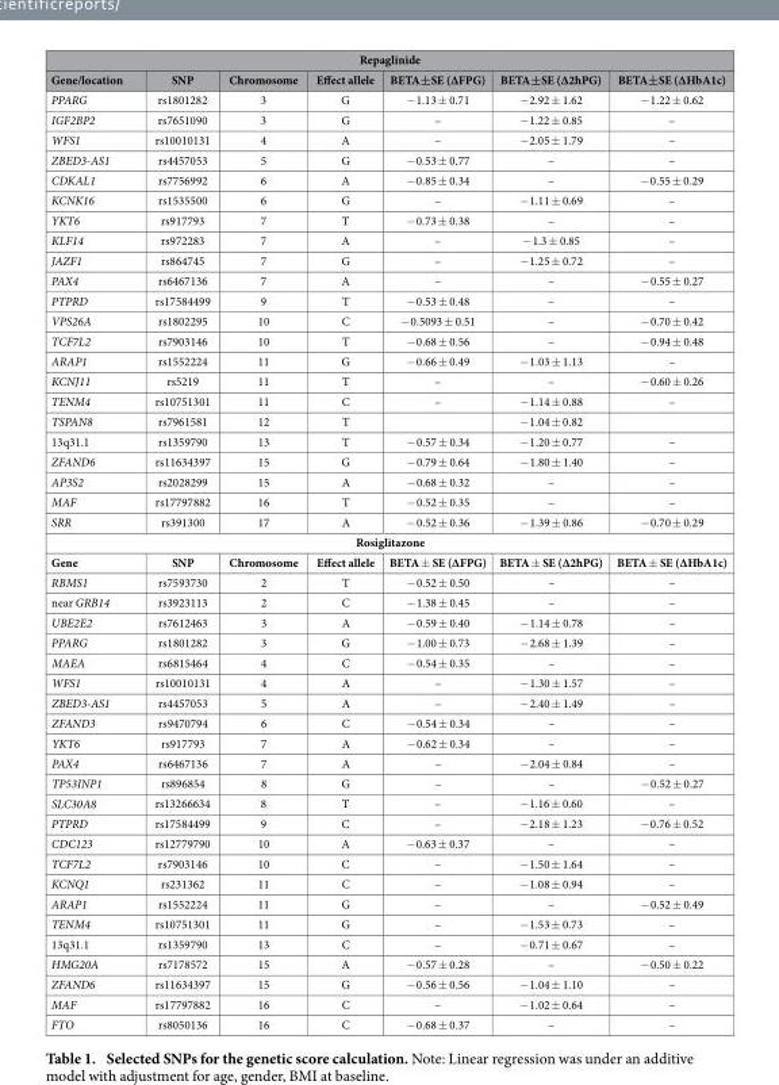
<table><thead><tr><td colspan="7">Repaglinide</td></tr><tr><td>Gene/location</td><td>SNP</td><td>Chromosome</td><td>Effect allele</td><td>BETA±SE (ΔFPG)</td><td>BETA±SE (Δ2hPG)</td><td>BETA±SE (ΔHbA1c)</td></tr></thead><tbody><tr><td>PPARG</td><td>rs1801282</td><td>3</td><td>G</td><td>− 1.13 ± 0.71</td><td>− 2.92 ± 1.62</td><td>− 1.22 ± 0.62</td></tr><tr><td>IGF2BP2</td><td>rs7651090</td><td>3</td><td>G</td><td>–</td><td>− 1.22 ± 0.85</td><td>–</td></tr><tr><td>WFS1</td><td>rs10010131</td><td>4</td><td>A</td><td>–</td><td>− 2.05 ± 1.79</td><td>–</td></tr><tr><td>ZBED3-AS1</td><td>rs4457053</td><td>5</td><td>G</td><td>− 0.53 ± 0.77</td><td>–</td><td>–</td></tr><tr><td>CDKAL1</td><td>rs7756992</td><td>6</td><td>A</td><td>− 0.85 ± 0.34</td><td>–</td><td>− 0.55 ± 0.29</td></tr><tr><td>KCNK16</td><td>rs1535500</td><td>6</td><td>G</td><td>–</td><td>− 1.11 ± 0.69</td><td>–</td></tr><tr><td>YKT6</td><td>rs917793</td><td>7</td><td>T</td><td>− 0.73 ± 0.38</td><td>–</td><td>–</td></tr><tr><td>KLF14</td><td>rs972283</td><td>7</td><td>A</td><td>–</td><td>− 1.3 ± 0.85</td><td>–</td></tr><tr><td>JAZF1</td><td>rs864745</td><td>7</td><td>G</td><td>–</td><td>− 1.25 ± 0.72</td><td>–</td></tr><tr><td>PAX4</td><td>rs6467136</td><td>7</td><td>A</td><td>–</td><td>–</td><td>− 0.55 ± 0.27</td></tr><tr><td>PTPRD</td><td>rs17584499</td><td>9</td><td>T</td><td>− 0.53 ± 0.48</td><td>–</td><td>–</td></tr><tr><td>VPS26A</td><td>rs1802295</td><td>10</td><td>C</td><td>− 0.5093 ± 0.51</td><td>–</td><td>− 0.70 ± 0.42</td></tr><tr><td>TCF7L2</td><td>rs7903146</td><td>10</td><td>T</td><td>− 0.68 ± 0.56</td><td>–</td><td>− 0.94 ± 0.48</td></tr><tr><td>ARAP1</td><td>rs1552224</td><td>11</td><td>G</td><td>− 0.66 ± 0.49</td><td>− 1.03 ± 1.13</td><td>–</td></tr><tr><td>KCNJ11</td><td>rs5219</td><td>11</td><td>T</td><td>–</td><td>–</td><td>− 0.60 ± 0.26</td></tr><tr><td>TENM4</td><td>rs10751301</td><td>11</td><td>C</td><td>–</td><td>− 1.14 ± 0.88</td><td>–</td></tr><tr><td>TSPAN8</td><td>rs7961581</td><td>12</td><td>T</td><td></td><td>− 1.04 ± 0.82</td><td></td></tr><tr><td>13q31.1</td><td>rs1359790</td><td>13</td><td>T</td><td>− 0.57 ± 0.34</td><td>− 1.20 ± 0.77</td><td>–</td></tr><tr><td>ZFAND6</td><td>rs11634397</td><td>15</td><td>G</td><td>− 0.79 ± 0.64</td><td>− 1.80 ± 1.40</td><td>–</td></tr><tr><td>AP3S2</td><td>rs2028299</td><td>15</td><td>A</td><td>− 0.68 ± 0.32</td><td>–</td><td>–</td></tr><tr><td>MAF</td><td>rs17797882</td><td>16</td><td>T</td><td>− 0.52 ± 0.35</td><td>–</td><td>–</td></tr><tr><td>SRR</td><td>rs391300</td><td>17</td><td>A</td><td>− 0.52 ± 0.36</td><td>− 1.39 ± 0.86</td><td>− 0.70 ± 0.29</td></tr><tr><td colspan="7">Rosiglitazone</td></tr><tr><td>Gene</td><td>SNP</td><td>Chromosome</td><td>Effect allele</td><td>BETA ± SE (ΔFPG)</td><td>BETA ± SE (Δ2hPG)</td><td>BETA ± SE (ΔHbA1c)</td></tr><tr><td>RBMS1</td><td>rs7593730</td><td>2</td><td>T</td><td>− 0.52 ± 0.50</td><td>–</td><td>–</td></tr><tr><td>near GRB14</td><td>rs3923113</td><td>2</td><td>C</td><td>− 1.38 ± 0.45</td><td>–</td><td>–</td></tr><tr><td>UBE2E2</td><td>rs7612463</td><td>3</td><td>A</td><td>− 0.59 ± 0.40</td><td>− 1.14 ± 0.78</td><td>–</td></tr><tr><td>PPARG</td><td>rs1801282</td><td>3</td><td>G</td><td>− 1.00 ± 0.73</td><td>− 2.68 ± 1.39</td><td>–</td></tr><tr><td>MAEA</td><td>rs6815464</td><td>4</td><td>C</td><td>− 0.54 ± 0.35</td><td>–</td><td>–</td></tr><tr><td>WFS1</td><td>rs10010131</td><td>4</td><td>A</td><td>–</td><td>− 1.30 ± 1.57</td><td>–</td></tr><tr><td>ZBED3-AS1</td><td>rs4457053</td><td>5</td><td>A</td><td>–</td><td>− 2.40 ± 1.49</td><td>–</td></tr><tr><td>ZFAND3</td><td>rs9470794</td><td>6</td><td>C</td><td>− 0.54 ± 0.34</td><td>–</td><td>–</td></tr><tr><td>YKT6</td><td>rs917793</td><td>7</td><td>A</td><td>− 0.62 ± 0.34</td><td>–</td><td>–</td></tr><tr><td>PAX4</td><td>rs6467136</td><td>7</td><td>A</td><td>–</td><td>− 2.04 ± 0.84</td><td>–</td></tr><tr><td>TP53INP1</td><td>rs896854</td><td>8</td><td>G</td><td>–</td><td>–</td><td>− 0.52 ± 0.27</td></tr><tr><td>SLC30A8</td><td>rs13266634</td><td>8</td><td>T</td><td>–</td><td>− 1.16 ± 0.60</td><td>–</td></tr><tr><td>PTPRD</td><td>rs17584499</td><td>9</td><td>C</td><td>–</td><td>− 2.18 ± 1.23</td><td>− 0.76 ± 0.52</td></tr><tr><td>CDC123</td><td>rs12779790</td><td>10</td><td>A</td><td>− 0.63 ± 0.37</td><td>–</td><td>–</td></tr><tr><td>TCF7L2</td><td>rs7903146</td><td>10</td><td>C</td><td>–</td><td>− 1.50 ± 1.64</td><td>–</td></tr><tr><td>KCNQ1</td><td>rs231362</td><td>11</td><td>C</td><td>–</td><td>− 1.08 ± 0.94</td><td>–</td></tr><tr><td>ARAP1</td><td>rs1552224</td><td>11</td><td>G</td><td>–</td><td>–</td><td>− 0.52 ± 0.49</td></tr><tr><td>TENM4</td><td>rs10751301</td><td>11</td><td>G</td><td>–</td><td>− 1.53 ± 0.73</td><td>–</td></tr><tr><td>13q31.1</td><td>rs1359790</td><td>13</td><td>C</td><td>–</td><td>− 0.71 ± 0.67</td><td>–</td></tr><tr><td>HMG20A</td><td>rs7178572</td><td>15</td><td>A</td><td>− 0.57 ± 0.28</td><td>–</td><td>− 0.50 ± 0.22</td></tr><tr><td>ZFAND6</td><td>rs11634397</td><td>15</td><td>G</td><td>− 0.56 ± 0.56</td><td>− 1.04 ± 1.10</td><td>–</td></tr><tr><td>MAF</td><td>rs17797882</td><td>16</td><td>C</td><td>–</td><td>− 1.02 ± 0.64</td><td>–</td></tr><tr><td>FTO</td><td>rs8050136</td><td>16</td><td>C</td><td>− 0.68 ± 0.37</td><td>–</td><td>–</td></tr></tbody></table>